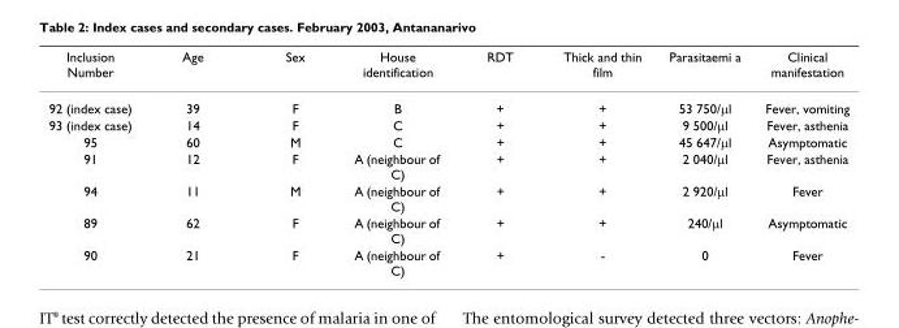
<table><thead><tr><td>Inclusion Number</td><td>Age</td><td>Sex</td><td>House identification</td><td>RDT</td><td>Thick and thin film</td><td>Parasitaemi a</td><td>Clinical manifestation</td></tr></thead><tbody><tr><td>92 (index case)</td><td>39</td><td>F</td><td>B</td><td>+</td><td>+</td><td>53 750/µl</td><td>Fever, vomiting</td></tr><tr><td>93 (index case)</td><td>14</td><td>F</td><td>C</td><td>+</td><td>+</td><td>9 500/µl</td><td>Fever, asthenia</td></tr><tr><td>95</td><td>60</td><td>M</td><td>C</td><td>+</td><td>+</td><td>45 647/µl</td><td>Asymptomatic</td></tr><tr><td>91</td><td>12</td><td>F</td><td>A (neighbour of C)</td><td>+</td><td>+</td><td>2 040/µl</td><td>Fever, asthenia</td></tr><tr><td>94</td><td>11</td><td>M</td><td>A (neighbour of C)</td><td>+</td><td>+</td><td>2 920/µl</td><td>Fever</td></tr><tr><td>89</td><td>62</td><td>F</td><td>A (neighbour of C)</td><td>+</td><td>+</td><td>240/µl</td><td>Asymptomatic</td></tr><tr><td>90</td><td>21</td><td>F</td><td>A (neighbour of C)</td><td>+</td><td>-</td><td>0</td><td>Fever</td></tr></tbody></table>